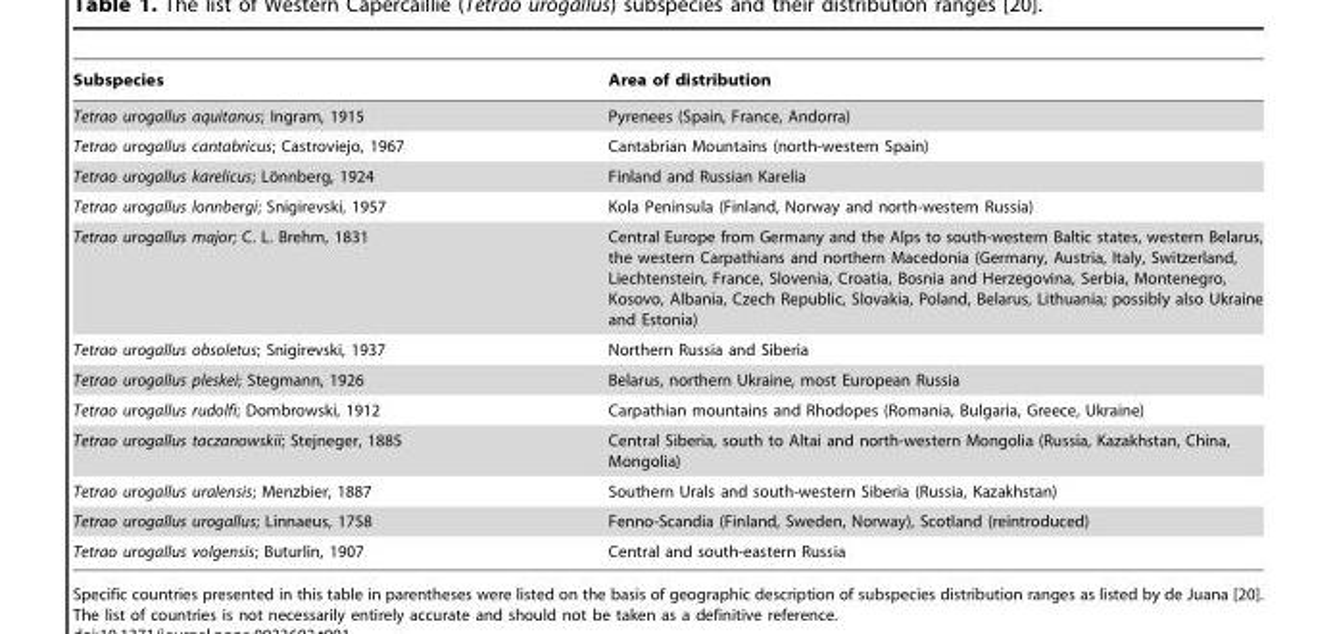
<table><thead><tr><td>Subspecies</td><td>Area of distribution</td></tr></thead><tbody><tr><td>Tetrao urogallus aquitanus; Ingram, 1915</td><td>Pyrenees (Spain, France, Andorra)</td></tr><tr><td>Tetrao urogallus cantabricus; Castroviejo, 1967</td><td>Cantabrian Mountains (north-western Spain)</td></tr><tr><td>Tetrao urogallus karelicus; Lo¨nnberg, 1924</td><td>Finland and Russian Karelia</td></tr><tr><td>Tetrao urogallus lonnbergi; Snigirevski, 1957</td><td>Kola Peninsula (Finland, Norway and north-western Russia)</td></tr><tr><td>Tetrao urogallus major; C. L. Brehm, 1831</td><td>Central Europe from Germany and the Alps to south-western Baltic states, western Belarus, the western Carpathians and northern Macedonia (Germany, Austria, Italy, Switzerland, Liechtenstein, France, Slovenia, Croatia, Bosnia and Herzegovina, Serbia, Montenegro, Kosovo, Albania, Czech Republic, Slovakia, Poland, Belarus, Lithuania; possibly also Ukraine and Estonia)</td></tr><tr><td>Tetrao urogallus obsoletus; Snigirevski, 1937</td><td>Northern Russia and Siberia</td></tr><tr><td>Tetrao urogallus pleskei; Stegmann, 1926</td><td>Belarus, northern Ukraine, most European Russia</td></tr><tr><td>Tetrao urogallus rudolfi; Dombrowski, 1912</td><td>Carpathian mountains and Rhodopes (Romania, Bulgaria, Greece, Ukraine)</td></tr><tr><td>Tetrao urogallus taczanowskii; Stejneger, 1885</td><td>Central Siberia, south to Altai and north-western Mongolia (Russia, Kazakhstan, China, Mongolia)</td></tr><tr><td>Tetrao urogallus uralensis; Menzbier, 1887</td><td>Southern Urals and south-western Siberia (Russia, Kazakhstan)</td></tr><tr><td>Tetrao urogallus urogallus; Linnaeus, 1758</td><td>Fenno-Scandia (Finland, Sweden, Norway), Scotland (reintroduced)</td></tr><tr><td>Tetrao urogallus volgensis; Buturlin, 1907</td><td>Central and south-eastern Russia</td></tr></tbody></table>